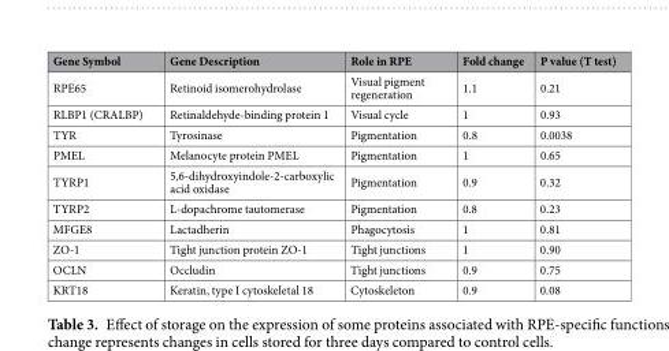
<table><thead><tr><td>Gene Symbol</td><td>Gene Description</td><td>Role in RPE</td><td>Fold change</td><td>P value (T test)</td></tr></thead><tbody><tr><td>RPE65</td><td>Retinoid isomerohydrolase</td><td>Visual pigment regeneration</td><td>1.1</td><td>0.21</td></tr><tr><td>RLBP1 (CRALBP)</td><td>Retinaldehyde-binding protein 1</td><td>Visual cycle</td><td>1</td><td>0.93</td></tr><tr><td>TYR</td><td>Tyrosinase</td><td>Pigmentation</td><td>0.8</td><td>0.0038</td></tr><tr><td>PMEL</td><td>Melanocyte protein PMEL</td><td>Pigmentation</td><td>1</td><td>0.65</td></tr><tr><td>TYRP1</td><td>5,6-dihydroxyindole-2-carboxylic acid oxidase</td><td>Pigmentation</td><td>0.9</td><td>0.32</td></tr><tr><td>TYRP2</td><td>L-dopachrome tautomerase</td><td>Pigmentation</td><td>0.8</td><td>0.23</td></tr><tr><td>MFGE8</td><td>Lactadherin</td><td>Phagocytosis</td><td>1</td><td>0.81</td></tr><tr><td>ZO-1</td><td>Tight junction protein ZO-1</td><td>Tight junctions</td><td>1</td><td>0.90</td></tr><tr><td>OCLN</td><td>Occludin</td><td>Tight junctions</td><td>0.9</td><td>0.75</td></tr><tr><td>KRT18</td><td>Keratin, type I cytoskeletal 18</td><td>Cytoskeleton</td><td>0.9</td><td>0.08</td></tr></tbody></table>